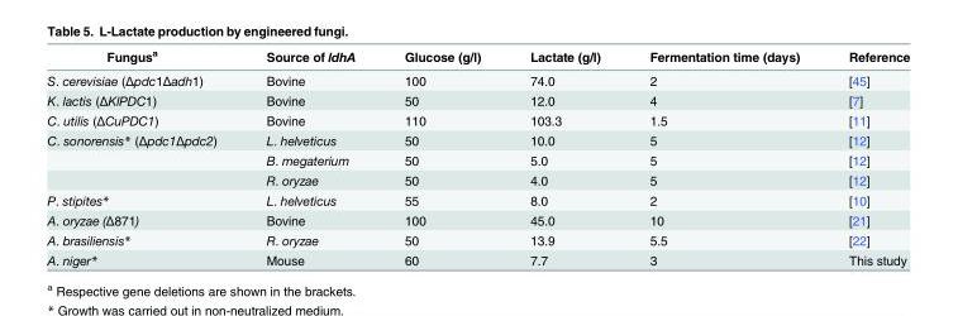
<table><thead><tr><td>Fungus<sup>a</sup></td><td>Source of ldhA</td><td>Glucose (g/l)</td><td>Lactate (g/l)</td><td>Fermentation time (days)</td><td>Reference</td></tr></thead><tbody><tr><td>S. cerevisiae (Δpdc1Δadh1)</td><td>Bovine</td><td>100</td><td>74.0</td><td>2</td><td>[45]</td></tr><tr><td>K. lactis (ΔKlPDC1)</td><td>Bovine</td><td>50</td><td>12.0</td><td>4</td><td>[7]</td></tr><tr><td>C. utilis (ΔCuPDC1)</td><td>Bovine</td><td>110</td><td>103.3</td><td>1.5</td><td>[11]</td></tr><tr><td rowspan="3">C. sonorensis* (Δpdc1Δpdc2)</td><td>L. helveticus</td><td>50</td><td>10.0</td><td>5</td><td>[12]</td></tr><tr><td>B. megaterium</td><td>50</td><td>5.0</td><td>5</td><td>[12]</td></tr><tr><td>R. oryzae</td><td>50</td><td>4.0</td><td>5</td><td>[12]</td></tr><tr><td>P. stipites*</td><td>L. helveticus</td><td>55</td><td>8.0</td><td>2</td><td>[10]</td></tr><tr><td>A. oryzae (Δ871)</td><td>Bovine</td><td>100</td><td>45.0</td><td>10</td><td>[21]</td></tr><tr><td>A. brasiliensis*</td><td>R. oryzae</td><td>50</td><td>13.9</td><td>5.5</td><td>[22]</td></tr><tr><td>A. niger*</td><td>Mouse</td><td>60</td><td>7.7</td><td>3</td><td>This study</td></tr></tbody></table>